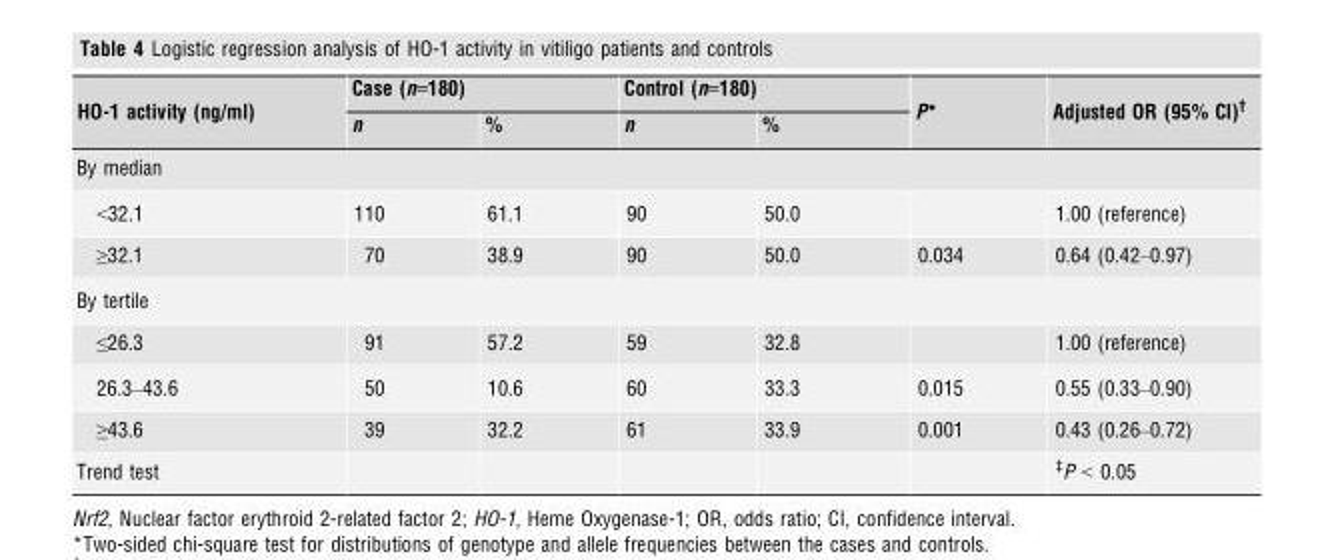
<table><thead><tr><td rowspan="2">HO-1 activity (ng/ml)</td><td colspan="2">Case (n=180)</td><td colspan="2">Control (n=180)</td><td rowspan="2">P*</td><td rowspan="2">Adjusted OR (95% CI)†</td></tr><tr><td>n</td><td>%</td><td>n</td><td>%</td></tr></thead><tbody><tr><td colspan="7">By median</td></tr><tr><td>&lt;32.1</td><td>110</td><td>61.1</td><td>90</td><td>50.0</td><td></td><td>1.00 (reference)</td></tr><tr><td>≥32.1</td><td>70</td><td>38.9</td><td>90</td><td>50.0</td><td>0.034</td><td>0.64 (0.42–0.97)</td></tr><tr><td colspan="7">By tertile</td></tr><tr><td>≤26.3</td><td>91</td><td>57.2</td><td>59</td><td>32.8</td><td></td><td>1.00 (reference)</td></tr><tr><td>26.3–43.6</td><td>50</td><td>10.6</td><td>60</td><td>33.3</td><td>0.015</td><td>0.55 (0.33–0.90)</td></tr><tr><td>≥43.6</td><td>39</td><td>32.2</td><td>61</td><td>33.9</td><td>0.001</td><td>0.43 (0.26–0.72)</td></tr><tr><td>Trend test</td><td></td><td></td><td></td><td></td><td></td><td>‡P &lt; 0.05</td></tr></tbody></table>